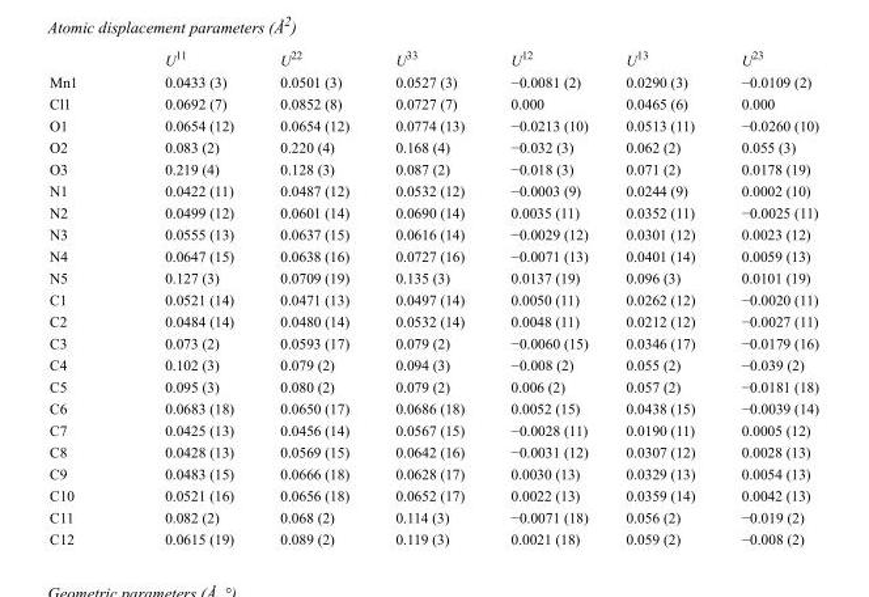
<table><thead><tr><td></td><td>U<sup>11</sup></td><td>U<sup>22</sup></td><td>U<sup>33</sup></td><td>U<sup>12</sup></td><td>U<sup>13</sup></td><td>U<sup>23</sup></td></tr></thead><tbody><tr><td>Mn1</td><td>0.0433 (3)</td><td>0.0501 (3)</td><td>0.0527 (3)</td><td>−0.0081 (2)</td><td>0.0290 (3)</td><td>−0.0109 (2)</td></tr><tr><td>Cl1</td><td>0.0692 (7)</td><td>0.0852 (8)</td><td>0.0727 (7)</td><td>0.000</td><td>0.0465 (6)</td><td>0.000</td></tr><tr><td>O1</td><td>0.0654 (12)</td><td>0.0654 (12)</td><td>0.0774 (13)</td><td>−0.0213 (10)</td><td>0.0513 (11)</td><td>−0.0260 (10)</td></tr><tr><td>O2</td><td>0.083 (2)</td><td>0.220 (4)</td><td>0.168 (4)</td><td>−0.032 (3)</td><td>0.062 (2)</td><td>0.055 (3)</td></tr><tr><td>O3</td><td>0.219 (4)</td><td>0.128 (3)</td><td>0.087 (2)</td><td>−0.018 (3)</td><td>0.071 (2)</td><td>0.0178 (19)</td></tr><tr><td>N1</td><td>0.0422 (11)</td><td>0.0487 (12)</td><td>0.0532 (12)</td><td>−0.0003 (9)</td><td>0.0244 (9)</td><td>0.0002 (10)</td></tr><tr><td>N2</td><td>0.0499 (12)</td><td>0.0601 (14)</td><td>0.0690 (14)</td><td>0.0035 (11)</td><td>0.0352 (11)</td><td>−0.0025 (11)</td></tr><tr><td>N3</td><td>0.0555 (13)</td><td>0.0637 (15)</td><td>0.0616 (14)</td><td>−0.0029 (12)</td><td>0.0301 (12)</td><td>0.0023 (12)</td></tr><tr><td>N4</td><td>0.0647 (15)</td><td>0.0638 (16)</td><td>0.0727 (16)</td><td>−0.0071 (13)</td><td>0.0401 (14)</td><td>0.0059 (13)</td></tr><tr><td>N5</td><td>0.127 (3)</td><td>0.0709 (19)</td><td>0.135 (3)</td><td>0.0137 (19)</td><td>0.096 (3)</td><td>0.0101 (19)</td></tr><tr><td>C1</td><td>0.0521 (14)</td><td>0.0471 (13)</td><td>0.0497 (14)</td><td>0.0050 (11)</td><td>0.0262 (12)</td><td>−0.0020 (11)</td></tr><tr><td>C2</td><td>0.0484 (14)</td><td>0.0480 (14)</td><td>0.0532 (14)</td><td>0.0048 (11)</td><td>0.0212 (12)</td><td>−0.0027 (11)</td></tr><tr><td>C3</td><td>0.073 (2)</td><td>0.0593 (17)</td><td>0.079 (2)</td><td>−0.0060 (15)</td><td>0.0346 (17)</td><td>−0.0179 (16)</td></tr><tr><td>C4</td><td>0.102 (3)</td><td>0.079 (2)</td><td>0.094 (3)</td><td>−0.008 (2)</td><td>0.055 (2)</td><td>−0.039 (2)</td></tr><tr><td>C5</td><td>0.095 (3)</td><td>0.080 (2)</td><td>0.079 (2)</td><td>0.006 (2)</td><td>0.057 (2)</td><td>−0.0181 (18)</td></tr><tr><td>C6</td><td>0.0683 (18)</td><td>0.0650 (17)</td><td>0.0686 (18)</td><td>0.0052 (15)</td><td>0.0438 (15)</td><td>−0.0039 (14)</td></tr><tr><td>C7</td><td>0.0425 (13)</td><td>0.0456 (14)</td><td>0.0567 (15)</td><td>−0.0028 (11)</td><td>0.0190 (11)</td><td>0.0005 (12)</td></tr><tr><td>C8</td><td>0.0428 (13)</td><td>0.0569 (15)</td><td>0.0642 (16)</td><td>−0.0031 (12)</td><td>0.0307 (12)</td><td>0.0028 (13)</td></tr><tr><td>C9</td><td>0.0483 (15)</td><td>0.0666 (18)</td><td>0.0628 (17)</td><td>0.0030 (13)</td><td>0.0329 (13)</td><td>0.0054 (13)</td></tr><tr><td>C10</td><td>0.0521 (16)</td><td>0.0656 (18)</td><td>0.0652 (17)</td><td>0.0022 (13)</td><td>0.0359 (14)</td><td>0.0042 (13)</td></tr><tr><td>C11</td><td>0.082 (2)</td><td>0.068 (2)</td><td>0.114 (3)</td><td>−0.0071 (18)</td><td>0.056 (2)</td><td>−0.019 (2)</td></tr><tr><td>C12</td><td>0.0615 (19)</td><td>0.089 (2)</td><td>0.119 (3)</td><td>0.0021 (18)</td><td>0.059 (2)</td><td>−0.008 (2)</td></tr></tbody></table>